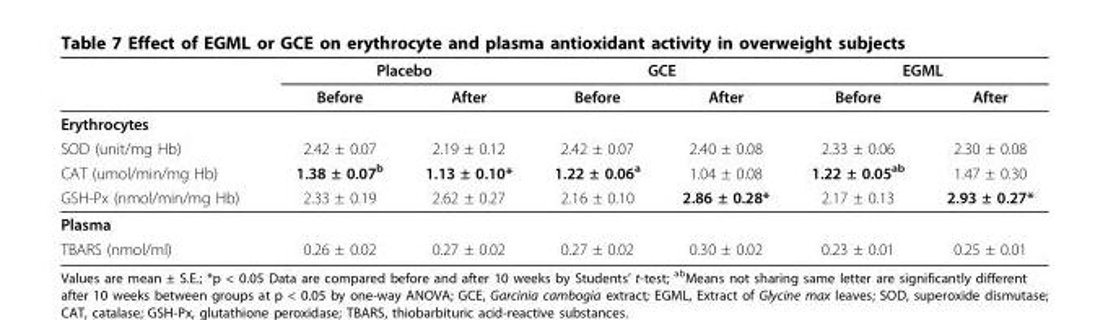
<table><thead><tr><td rowspan="2"></td><td colspan="2">Placebo</td><td colspan="2">GCE</td><td colspan="2">EGML</td></tr><tr><td>Before</td><td>After</td><td>Before</td><td>After</td><td>Before</td><td>After</td></tr></thead><tbody><tr><td colspan="7">Erythrocytes</td></tr><tr><td>SOD (unit/mg Hb)</td><td>2.42 ± 0.07</td><td>2.19 ± 0.12</td><td>2.42 ± 0.07</td><td>2.40 ± 0.08</td><td>2.33 ± 0.06</td><td>2.30 ± 0.08</td></tr><tr><td>CAT (umol/min/mg Hb)</td><td>1.38 ± 0.07<sup>b</sup></td><td>1.13 ± 0.10*</td><td>1.22 ± 0.06<sup>a</sup></td><td>1.04 ± 0.08</td><td>1.22 ± 0.05<sup>ab</sup></td><td>1.47 ± 0.30</td></tr><tr><td>GSH-Px (nmol/min/mg Hb)</td><td>2.33 ± 0.19</td><td>2.62 ± 0.27</td><td>2.16 ± 0.10</td><td>2.86 ± 0.28*</td><td>2.17 ± 0.13</td><td>2.93 ± 0.27*</td></tr><tr><td colspan="7">Plasma</td></tr><tr><td>TBARS (nmol/ml)</td><td>0.26 ± 0.02</td><td>0.27 ± 0.02</td><td>0.27 ± 0.02</td><td>0.30 ± 0.02</td><td>0.23 ± 0.01</td><td>0.25 ± 0.01</td></tr></tbody></table>